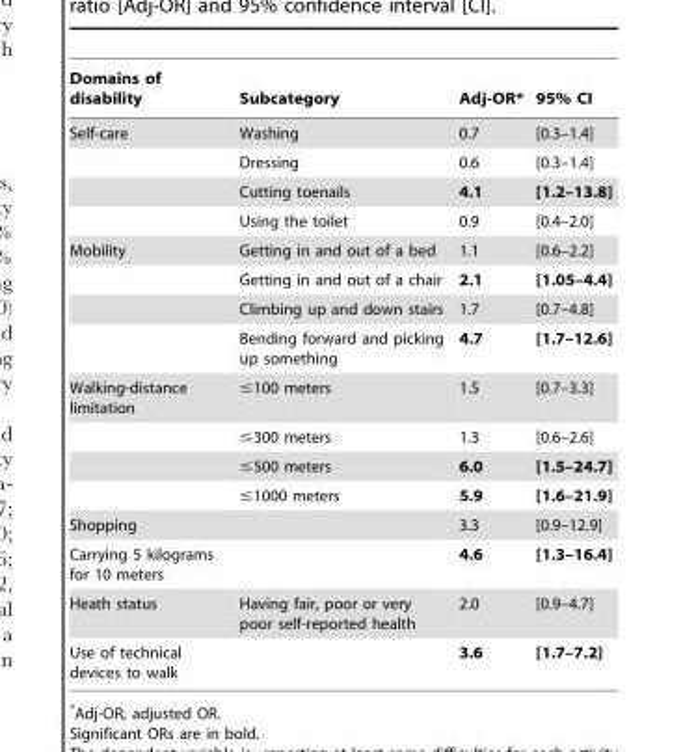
<table><thead><tr><td>Domains of disability</td><td>Subcategory</td><td>Adj-OR*</td><td>95% CI</td></tr></thead><tbody><tr><td rowspan="4">Self-care</td><td>Washing</td><td>0.7</td><td>[0.3–1.4]</td></tr><tr><td>Dressing</td><td>0.6</td><td>[0.3–1.4]</td></tr><tr><td>Cutting toenails</td><td>4.1</td><td>[1.2–13.8]</td></tr><tr><td>Using the toilet</td><td>0.9</td><td>[0.4–2.0]</td></tr><tr><td rowspan="4">Mobility</td><td>Getting in and out of a bed</td><td>1.1</td><td>[0.6–2.2]</td></tr><tr><td>Getting in and out of a chair</td><td>2.1</td><td>[1.05–4.4]</td></tr><tr><td>Climbing up and down stairs</td><td>1.7</td><td>[0.7–4.8]</td></tr><tr><td>Bending forward and picking up something</td><td>4.7</td><td>[1.7–12.6]</td></tr><tr><td rowspan="4">Walking-distance limitation</td><td>≤100 meters</td><td>1.5</td><td>[0.7–3.3]</td></tr><tr><td>≤300 meters</td><td>1.3</td><td>[0.6–2.6]</td></tr><tr><td>≤500 meters</td><td>6.0</td><td>[1.5–24.7]</td></tr><tr><td>≤1000 meters</td><td>5.9</td><td>[1.6–21.9]</td></tr><tr><td>Shopping</td><td></td><td>3.3</td><td>[0.9–12.9]</td></tr><tr><td>Carrying 5 kilograms for 10 meters</td><td></td><td>4.6</td><td>[1.3–16.4]</td></tr><tr><td>Heath status</td><td>Having fair, poor or very poor self-reported health</td><td>2.0</td><td>[0.9–4.7]</td></tr><tr><td>Use of technical devices to walk</td><td></td><td>3.6</td><td>[1.7–7.2]</td></tr></tbody></table>